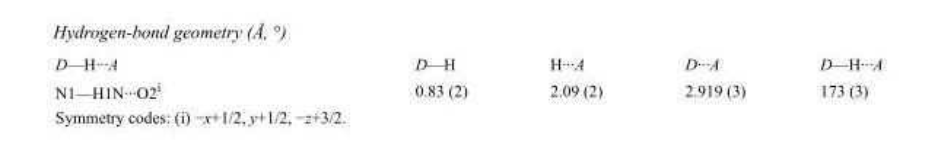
<table><tbody><tr><td>D—H···A</td><td>D—H</td><td>H···A</td><td>D···A</td><td>D—H···A</td></tr><tr><td>N1—H1N···O2<sup>i</sup></td><td>0.83 (2)</td><td>2.09 (2)</td><td>2.919 (3)</td><td>173 (3)</td></tr></tbody></table>